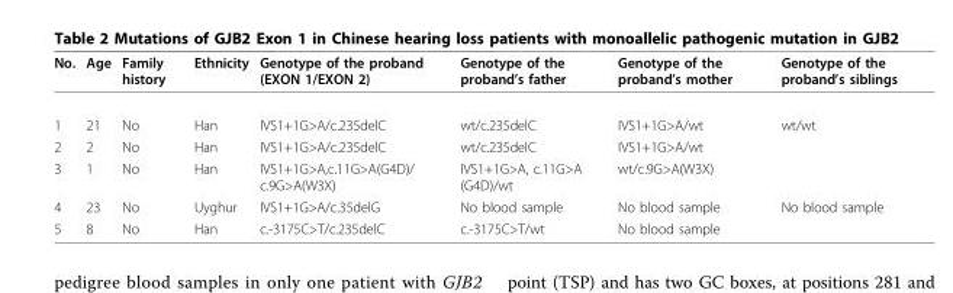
<table><thead><tr><td>No.</td><td>Age</td><td>Family history</td><td>Ethnicity</td><td>Genotype of the proband (EXON 1/EXON 2)</td><td>Genotype of the proband’s father</td><td>Genotype of the proband’s mother</td><td>Genotype of the proband’s siblings</td></tr></thead><tbody><tr><td>1</td><td>21</td><td>No</td><td>Han</td><td>IVS1+1G&gt;A/c.235delC</td><td>wt/c.235delC</td><td>IVS1+1G&gt;A/wt</td><td>wt/wt</td></tr><tr><td>2</td><td>2</td><td>No</td><td>Han</td><td>IVS1+1G&gt;A/c.235delC</td><td>wt/c.235delC</td><td>IVS1+1G&gt;A/wt</td><td></td></tr><tr><td>3</td><td>1</td><td>No</td><td>Han</td><td>IVS1+1G&gt;A,c.11G&gt;A(G4D)/ c.9G&gt;A(W3X)</td><td>IVS1+1G&gt;A, c.11G&gt;A (G4D)/wt</td><td>wt/c.9G&gt;A(W3X)</td><td></td></tr><tr><td>4</td><td>23</td><td>No</td><td>Uyghur</td><td>IVS1+1G&gt;A/c.35delG</td><td>No blood sample</td><td>No blood sample</td><td>No blood sample</td></tr><tr><td>5</td><td>8</td><td>No</td><td>Han</td><td>c.-3175C&gt;T/c.235delC</td><td>c.-3175C&gt;T/wt</td><td>No blood sample</td><td></td></tr></tbody></table>